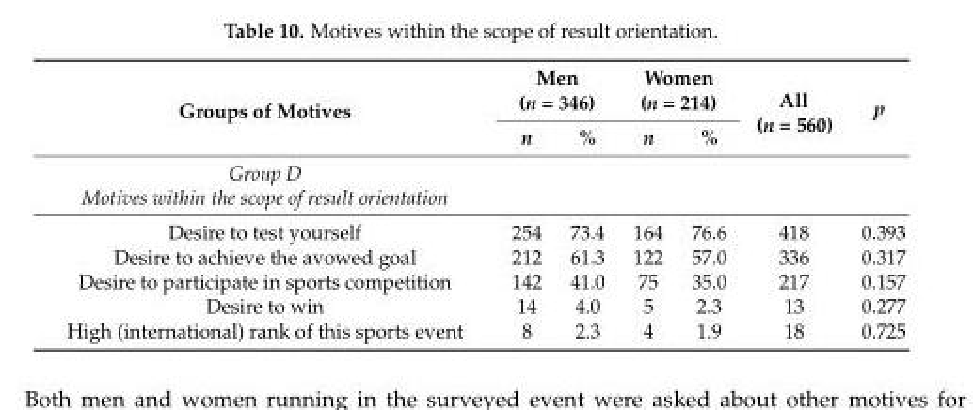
<table><thead><tr><td rowspan="2">Groups of Motives</td><td colspan="2">Men (n = 346)</td><td colspan="2">Women (n = 214)</td><td rowspan="2">All (n = 560)</td><td rowspan="2">p</td></tr><tr><td>n</td><td>%</td><td>n</td><td>%</td></tr></thead><tbody><tr><td colspan="7">Group D Motives within the scope of result orientation</td></tr><tr><td>Desire to test yourself</td><td>254</td><td>73.4</td><td>164</td><td>76.6</td><td>418</td><td>0.393</td></tr><tr><td>Desire to achieve the avowed goal</td><td>212</td><td>61.3</td><td>122</td><td>57.0</td><td>336</td><td>0.317</td></tr><tr><td>Desire to participate in sports competition</td><td>142</td><td>41.0</td><td>75</td><td>35.0</td><td>217</td><td>0.157</td></tr><tr><td>Desire to win</td><td>14</td><td>4.0</td><td>5</td><td>2.3</td><td>13</td><td>0.277</td></tr><tr><td>High (international) rank of this sports event</td><td>8</td><td>2.3</td><td>4</td><td>1.9</td><td>18</td><td>0.725</td></tr></tbody></table>